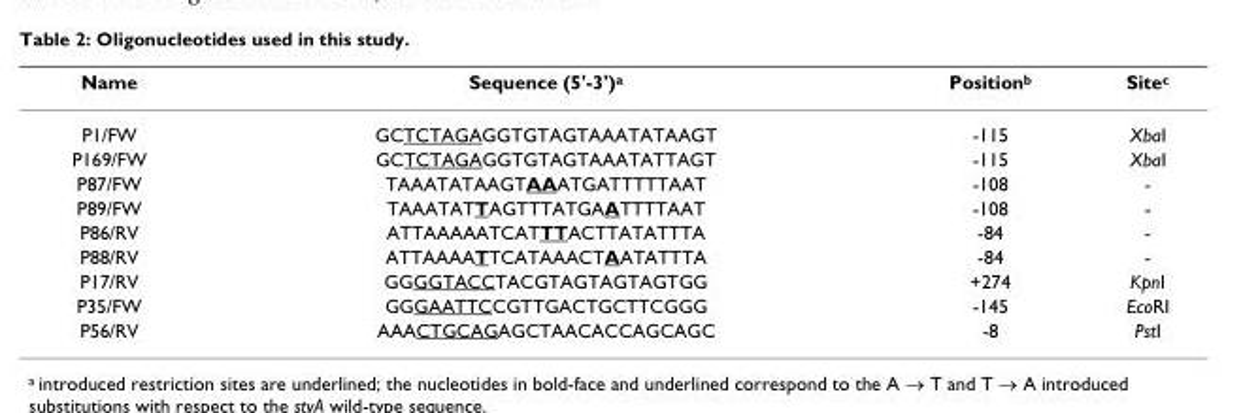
<table><thead><tr><td>Name</td><td>Sequence (5&#x27;-3&#x27;)<sup>a</sup></td><td>Position<sup>b</sup></td><td>Site<sup>c</sup></td></tr></thead><tbody><tr><td>P1/FW</td><td>GCTCTAGAGGTGTAGTAAATATAAGT</td><td>-115</td><td>XbaI</td></tr><tr><td>P169/FW</td><td>GCTCTAGAGGTGTAGTAAATATTAGT</td><td>-115</td><td>XbaI</td></tr><tr><td>P87/FW</td><td>TAAATATAAGTAAATGATTTTTAAT</td><td>-108</td><td>-</td></tr><tr><td>P89/FW</td><td>TAAATATTAGTTTATGAATTTTAAT</td><td>-108</td><td>-</td></tr><tr><td>P86/RV</td><td>ATTAAAAATCATTTACTTATATTTA</td><td>-84</td><td>-</td></tr><tr><td>P88/RV</td><td>ATTAAAATTCATAAACTAATATTTA</td><td>-84</td><td>-</td></tr><tr><td>P17/RV</td><td>GGGGTACCTACGTAGTAGTAGTGG</td><td>+274</td><td>KpnI</td></tr><tr><td>P35/FW</td><td>GGGAATTCCGTTGACTGCTTCGGG</td><td>-145</td><td>EcoRI</td></tr><tr><td>P56/RV</td><td>AAACTGCAGAGCTAACACCAGCAGC</td><td>-8</td><td>PstI</td></tr></tbody></table>